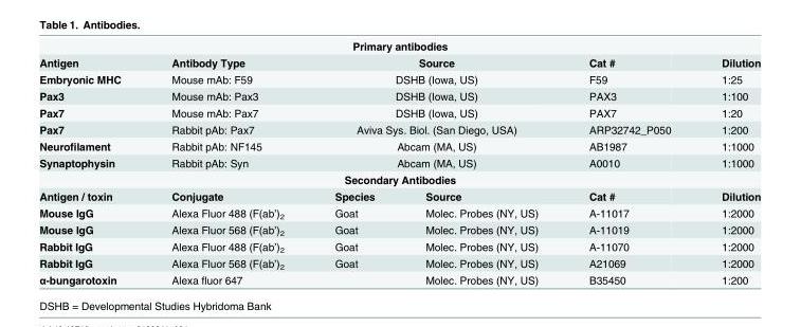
<table><tbody><tr><td colspan="6">Primary antibodies</td></tr><tr><td>Antigen</td><td>Antibody Type</td><td colspan="2">Source</td><td>Cat #</td><td>Dilution</td></tr><tr><td>Embryonic MHC</td><td>Mouse mAb: F59</td><td colspan="2">DSHB (Iowa, US)</td><td>F59</td><td>1:25</td></tr><tr><td>Pax3</td><td>Mouse mAb: Pax3</td><td colspan="2">DSHB (Iowa, US)</td><td>PAX3</td><td>1:100</td></tr><tr><td>Pax7</td><td>Mouse mAb: Pax7</td><td colspan="2">DSHB (Iowa, US)</td><td>PAX7</td><td>1:20</td></tr><tr><td>Pax7</td><td>Rabbit pAb: Pax7</td><td colspan="2">Aviva Sys. Biol. (San Diego, USA)</td><td>ARP32742_P050</td><td>1:200</td></tr><tr><td>Neurofilament</td><td>Rabbit pAb: NF145</td><td colspan="2">Abcam (MA, US)</td><td>AB1987</td><td>1:1000</td></tr><tr><td>Synaptophysin</td><td>Rabbit pAb: Syn</td><td colspan="2">Abcam (MA, US)</td><td>A0010</td><td>1:1000</td></tr><tr><td colspan="6">Secondary Antibodies</td></tr><tr><td>Antigen / toxin</td><td>Conjugate</td><td>Species</td><td>Source</td><td>Cat #</td><td>Dilution</td></tr><tr><td>Mouse IgG</td><td>Alexa Fluor 488 (F(ab’)<sub>2</sub></td><td>Goat</td><td>Molec. Probes (NY, US)</td><td>A-11017</td><td>1:2000</td></tr><tr><td>Mouse IgG</td><td>Alexa Fluor 568 (F(ab’)<sub>2</sub></td><td>Goat</td><td>Molec. Probes (NY, US)</td><td>A-11019</td><td>1:2000</td></tr><tr><td>Rabbit IgG</td><td>Alexa Fluor 488 (F(ab’)<sub>2</sub></td><td>Goat</td><td>Molec. Probes (NY, US)</td><td>A-11070</td><td>1:2000</td></tr><tr><td>Rabbit IgG</td><td>Alexa Fluor 568 (F(ab’)<sub>2</sub></td><td>Goat</td><td>Molec. Probes (NY, US)</td><td>A21069</td><td>1:2000</td></tr><tr><td>α-bungarotoxin</td><td>Alexa fluor 647</td><td></td><td>Molec. Probes (NY, US)</td><td>B35450</td><td>1:200</td></tr></tbody></table>